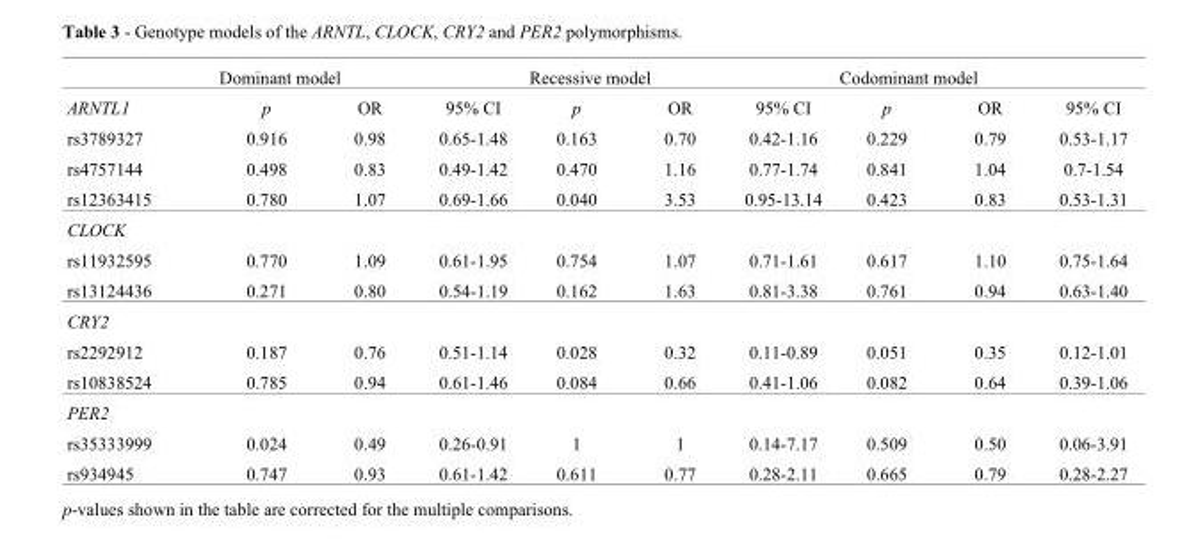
<table><thead><tr><td rowspan="2">ARNTL1</td><td colspan="3">Dominant model</td><td colspan="2">Recessive model</td><td rowspan="2">95% CI</td><td colspan="2">Codominant model</td><td rowspan="2">95% CI</td></tr><tr><td>p</td><td>OR</td><td>95% CI</td><td>p</td><td>OR</td><td>p</td><td>OR</td></tr></thead><tbody><tr><td>rs3789327</td><td>0.916</td><td>0.98</td><td>0.65-1.48</td><td>0.163</td><td>0.70</td><td>0.42-1.16</td><td>0.229</td><td>0.79</td><td>0.53-1.17</td></tr><tr><td>rs4757144</td><td>0.498</td><td>0.83</td><td>0.49-1.42</td><td>0.470</td><td>1.16</td><td>0.77-1.74</td><td>0.841</td><td>1.04</td><td>0.7-1.54</td></tr><tr><td>rs12363415</td><td>0.780</td><td>1.07</td><td>0.69-1.66</td><td>0.040</td><td>3.53</td><td>0.95-13.14</td><td>0.423</td><td>0.83</td><td>0.53-1.31</td></tr><tr><td colspan="10">CLOCK</td></tr><tr><td>rs11932595</td><td>0.770</td><td>1.09</td><td>0.61-1.95</td><td>0.754</td><td>1.07</td><td>0.71-1.61</td><td>0.617</td><td>1.10</td><td>0.75-1.64</td></tr><tr><td>rs13124436</td><td>0.271</td><td>0.80</td><td>0.54-1.19</td><td>0.162</td><td>1.63</td><td>0.81-3.38</td><td>0.761</td><td>0.94</td><td>0.63-1.40</td></tr><tr><td colspan="10">CRY2</td></tr><tr><td>rs2292912</td><td>0.187</td><td>0.76</td><td>0.51-1.14</td><td>0.028</td><td>0.32</td><td>0.11-0.89</td><td>0.051</td><td>0.35</td><td>0.12-1.01</td></tr><tr><td>rs10838524</td><td>0.785</td><td>0.94</td><td>0.61-1.46</td><td>0.084</td><td>0.66</td><td>0.41-1.06</td><td>0.082</td><td>0.64</td><td>0.39-1.06</td></tr><tr><td colspan="10">PER2</td></tr><tr><td>rs35333999</td><td>0.024</td><td>0.49</td><td>0.26-0.91</td><td>1</td><td>1</td><td>0.14-7.17</td><td>0.509</td><td>0.50</td><td>0.06-3.91</td></tr><tr><td>rs934945</td><td>0.747</td><td>0.93</td><td>0.61-1.42</td><td>0.611</td><td>0.77</td><td>0.28-2.11</td><td>0.665</td><td>0.79</td><td>0.28-2.27</td></tr></tbody></table>